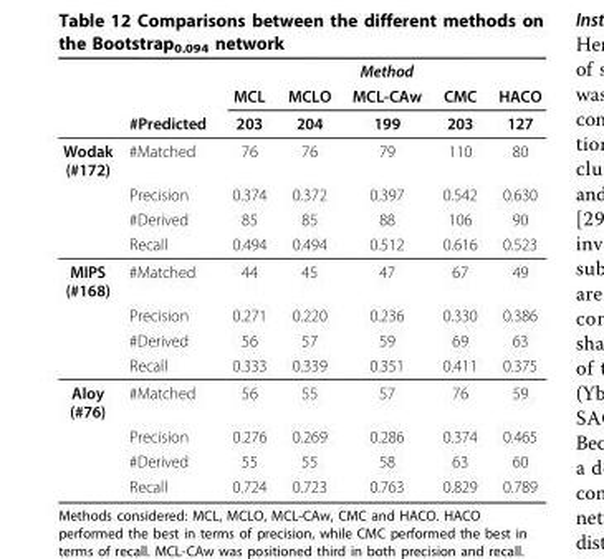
<table><thead><tr><td rowspan="3"></td><td rowspan="3">#Predicted</td><td colspan="5">Method</td></tr><tr><td rowspan="2">MCL 203</td><td rowspan="2">MCLO 204</td><td rowspan="2">MCL-CAw 199</td><td rowspan="2">CMC 203</td><td rowspan="2">HACO 127</td></tr><tr></tr></thead><tbody><tr><td rowspan="4">Wodak (#172)</td><td>#Matched</td><td>76</td><td>76</td><td>79</td><td>110</td><td>80</td></tr><tr><td>Precision</td><td>0.374</td><td>0.372</td><td>0.397</td><td>0.542</td><td>0.630</td></tr><tr><td>#Derived</td><td>85</td><td>85</td><td>88</td><td>106</td><td>90</td></tr><tr><td>Recall</td><td>0.494</td><td>0.494</td><td>0.512</td><td>0.616</td><td>0.523</td></tr><tr><td rowspan="4">MIPS (#168)</td><td>#Matched</td><td>44</td><td>45</td><td>47</td><td>67</td><td>49</td></tr><tr><td>Precision</td><td>0.271</td><td>0.220</td><td>0.236</td><td>0.330</td><td>0.386</td></tr><tr><td>#Derived</td><td>56</td><td>57</td><td>59</td><td>69</td><td>63</td></tr><tr><td>Recall</td><td>0.333</td><td>0.339</td><td>0.351</td><td>0.411</td><td>0.375</td></tr><tr><td rowspan="4">Aloy (#76)</td><td>#Matched</td><td>56</td><td>55</td><td>57</td><td>76</td><td>59</td></tr><tr><td>Precision</td><td>0.276</td><td>0.269</td><td>0.286</td><td>0.374</td><td>0.465</td></tr><tr><td>#Derived</td><td>55</td><td>55</td><td>58</td><td>63</td><td>60</td></tr><tr><td>Recall</td><td>0.724</td><td>0.723</td><td>0.763</td><td>0.829</td><td>0.789</td></tr></tbody></table>